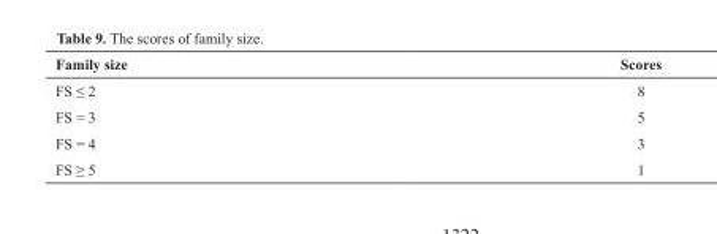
<table><thead><tr><td>Family size</td><td>Scores</td></tr></thead><tbody><tr><td>FS ≤ 2</td><td>8</td></tr><tr><td>FS = 3</td><td>5</td></tr><tr><td>FS = 4</td><td>3</td></tr><tr><td>FS ≥ 5</td><td>1</td></tr></tbody></table>